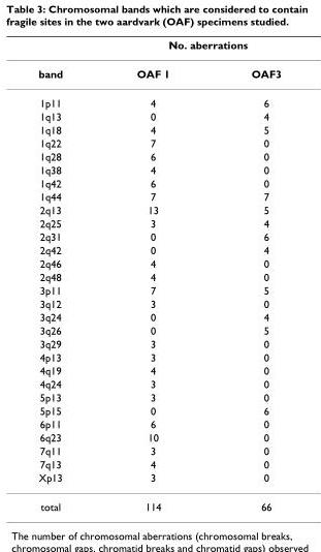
<table><thead><tr><td rowspan="2">band</td><td colspan="2">No. aberrations</td></tr><tr><td>OAF 1</td><td>OAF3</td></tr></thead><tbody><tr><td>1p11</td><td>4</td><td>6</td></tr><tr><td>1q13</td><td>0</td><td>4</td></tr><tr><td>1q18</td><td>4</td><td>5</td></tr><tr><td>1q22</td><td>7</td><td>0</td></tr><tr><td>1q28</td><td>6</td><td>0</td></tr><tr><td>1q38</td><td>4</td><td>0</td></tr><tr><td>1q42</td><td>6</td><td>0</td></tr><tr><td>1q44</td><td>7</td><td>7</td></tr><tr><td>2q13</td><td>13</td><td>5</td></tr><tr><td>2q25</td><td>3</td><td>4</td></tr><tr><td>2q31</td><td>0</td><td>6</td></tr><tr><td>2q42</td><td>0</td><td>4</td></tr><tr><td>2q46</td><td>4</td><td>0</td></tr><tr><td>2q48</td><td>4</td><td>0</td></tr><tr><td>3p11</td><td>7</td><td>5</td></tr><tr><td>3q12</td><td>3</td><td>0</td></tr><tr><td>3q24</td><td>0</td><td>4</td></tr><tr><td>3q26</td><td>0</td><td>5</td></tr><tr><td>3q29</td><td>3</td><td>0</td></tr><tr><td>4p13</td><td>3</td><td>0</td></tr><tr><td>4q19</td><td>4</td><td>0</td></tr><tr><td>4q24</td><td>3</td><td>0</td></tr><tr><td>5p13</td><td>3</td><td>0</td></tr><tr><td>5p15</td><td>0</td><td>6</td></tr><tr><td>6p11</td><td>6</td><td>0</td></tr><tr><td>6q23</td><td>10</td><td>0</td></tr><tr><td>7q11</td><td>3</td><td>0</td></tr><tr><td>7q13</td><td>4</td><td>0</td></tr><tr><td>Xp13</td><td>3</td><td>0</td></tr><tr><td>total</td><td>114</td><td>66</td></tr></tbody></table>